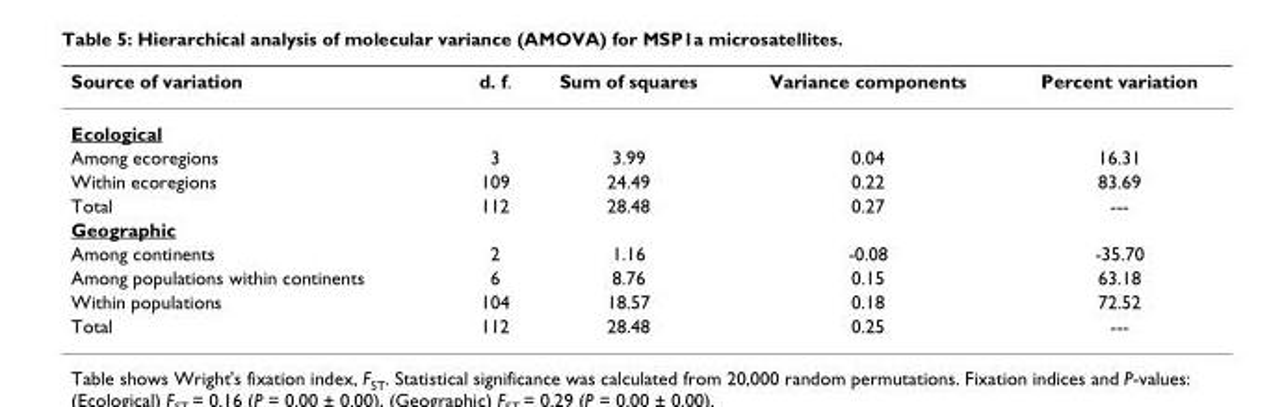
<table><thead><tr><td>Source of variation</td><td>d. f.</td><td>Sum of squares</td><td>Variance components</td><td>Percent variation</td></tr></thead><tbody><tr><td colspan="5">Ecological</td></tr><tr><td>Among ecoregions</td><td>3</td><td>3.99</td><td>0.04</td><td>16.31</td></tr><tr><td>Within ecoregions</td><td>109</td><td>24.49</td><td>0.22</td><td>83.69</td></tr><tr><td>Total</td><td>112</td><td>28.48</td><td>0.27</td><td>---</td></tr><tr><td colspan="5">Geographic</td></tr><tr><td>Among continents</td><td>2</td><td>1.16</td><td>-0.08</td><td>-35.70</td></tr><tr><td>Among populations within continents</td><td>6</td><td>8.76</td><td>0.15</td><td>63.18</td></tr><tr><td>Within populations</td><td>104</td><td>18.57</td><td>0.18</td><td>72.52</td></tr><tr><td>Total</td><td>112</td><td>28.48</td><td>0.25</td><td>---</td></tr></tbody></table>